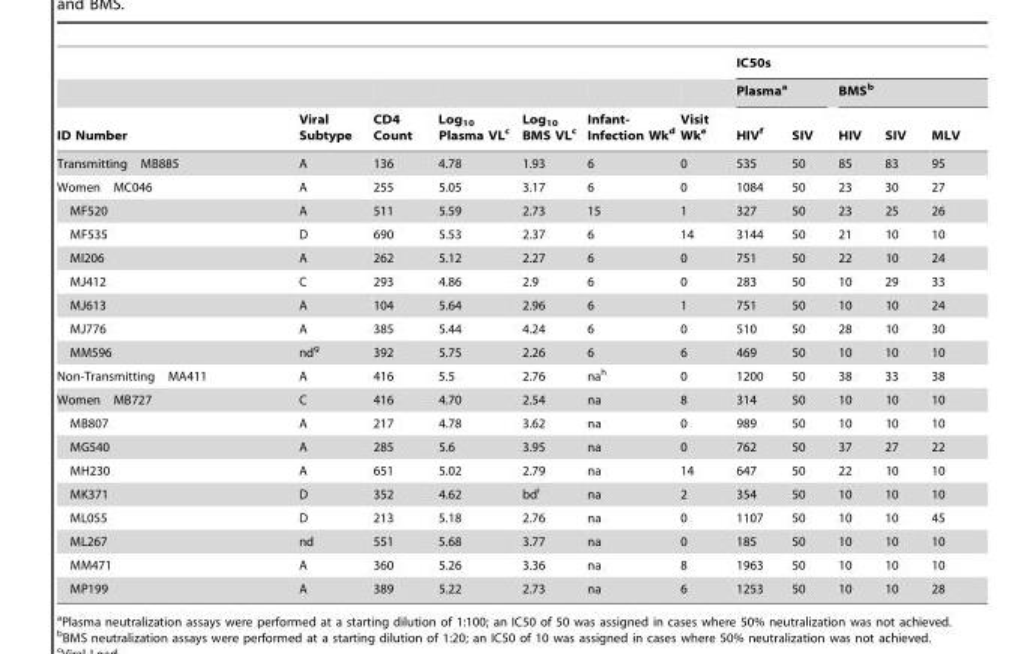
<table><thead><tr><td rowspan="3">ID Number</td><td rowspan="3">Viral Subtype</td><td rowspan="3">CD4 Count</td><td rowspan="3">Log<sub>10</sub> Plasma VL<sup>c</sup></td><td rowspan="3">Log<sub>10</sub> BMS VL<sup>c</sup></td><td rowspan="3">Infant- Infection Wk<sup>d</sup></td><td rowspan="3">Visit Wk<sup>e</sup></td><td colspan="5">IC50s</td></tr><tr><td colspan="2">Plasma<sup>a</sup></td><td colspan="3">BMS<sup>b</sup></td></tr><tr><td>HIV<sup>f</sup></td><td>SIV</td><td>HIV</td><td>SIV</td><td>MLV</td></tr></thead><tbody><tr><td>Transmitting MB885</td><td>A</td><td>136</td><td>4.78</td><td>1.93</td><td>6</td><td>0</td><td>535</td><td>50</td><td>85</td><td>83</td><td>95</td></tr><tr><td>Women MC046</td><td>A</td><td>255</td><td>5.05</td><td>3.17</td><td>6</td><td>0</td><td>1084</td><td>50</td><td>23</td><td>30</td><td>27</td></tr><tr><td>MF520</td><td>A</td><td>511</td><td>5.59</td><td>2.73</td><td>15</td><td>1</td><td>327</td><td>50</td><td>23</td><td>25</td><td>26</td></tr><tr><td>MF535</td><td>D</td><td>690</td><td>5.53</td><td>2.37</td><td>6</td><td>14</td><td>3144</td><td>50</td><td>21</td><td>10</td><td>10</td></tr><tr><td>MI206</td><td>A</td><td>262</td><td>5.12</td><td>2.27</td><td>6</td><td>0</td><td>751</td><td>50</td><td>22</td><td>10</td><td>24</td></tr><tr><td>MJ412</td><td>C</td><td>293</td><td>4.86</td><td>2.9</td><td>6</td><td>0</td><td>283</td><td>50</td><td>10</td><td>29</td><td>33</td></tr><tr><td>MJ613</td><td>A</td><td>104</td><td>5.64</td><td>2.96</td><td>6</td><td>1</td><td>751</td><td>50</td><td>10</td><td>10</td><td>24</td></tr><tr><td>MJ776</td><td>A</td><td>385</td><td>5.44</td><td>4.24</td><td>6</td><td>0</td><td>510</td><td>50</td><td>28</td><td>10</td><td>30</td></tr><tr><td>MM596</td><td>nd<sup>g</sup></td><td>392</td><td>5.75</td><td>2.26</td><td>6</td><td>6</td><td>469</td><td>50</td><td>10</td><td>10</td><td>10</td></tr><tr><td>Non-Transmitting MA411</td><td>A</td><td>416</td><td>5.5</td><td>2.76</td><td>na<sup>h</sup></td><td>0</td><td>1200</td><td>50</td><td>38</td><td>33</td><td>38</td></tr><tr><td>Women MB727</td><td>C</td><td>416</td><td>4.70</td><td>2.54</td><td>na</td><td>8</td><td>314</td><td>50</td><td>10</td><td>10</td><td>10</td></tr><tr><td>MB807</td><td>A</td><td>217</td><td>4.78</td><td>3.62</td><td>na</td><td>0</td><td>989</td><td>50</td><td>10</td><td>10</td><td>10</td></tr><tr><td>MG540</td><td>A</td><td>285</td><td>5.6</td><td>3.95</td><td>na</td><td>0</td><td>762</td><td>50</td><td>37</td><td>27</td><td>22</td></tr><tr><td>MH230</td><td>A</td><td>651</td><td>5.02</td><td>2.79</td><td>na</td><td>14</td><td>647</td><td>50</td><td>22</td><td>10</td><td>10</td></tr><tr><td>MK371</td><td>D</td><td>352</td><td>4.62</td><td>bd<sup>i</sup></td><td>na</td><td>2</td><td>354</td><td>50</td><td>10</td><td>10</td><td>10</td></tr><tr><td>ML055</td><td>D</td><td>213</td><td>5.18</td><td>2.76</td><td>na</td><td>0</td><td>1107</td><td>50</td><td>10</td><td>10</td><td>45</td></tr><tr><td>ML267</td><td>nd</td><td>551</td><td>5.68</td><td>3.77</td><td>na</td><td>0</td><td>185</td><td>50</td><td>10</td><td>10</td><td>10</td></tr><tr><td>MM471</td><td>A</td><td>360</td><td>5.26</td><td>3.36</td><td>na</td><td>8</td><td>1963</td><td>50</td><td>10</td><td>10</td><td>10</td></tr><tr><td>MP199</td><td>A</td><td>389</td><td>5.22</td><td>2.73</td><td>na</td><td>6</td><td>1253</td><td>50</td><td>10</td><td>10</td><td>28</td></tr></tbody></table>